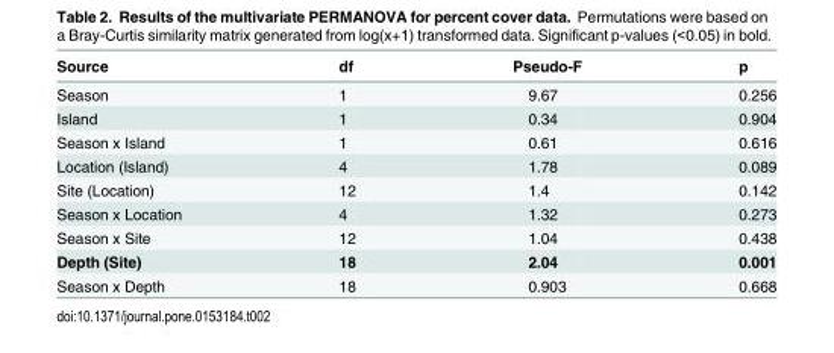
<table><thead><tr><td>Source</td><td>df</td><td>Pseudo-F</td><td>p</td></tr></thead><tbody><tr><td>Season</td><td>1</td><td>9.67</td><td>0.256</td></tr><tr><td>Island</td><td>1</td><td>0.34</td><td>0.904</td></tr><tr><td>Season x Island</td><td>1</td><td>0.61</td><td>0.616</td></tr><tr><td>Location (Island)</td><td>4</td><td>1.78</td><td>0.089</td></tr><tr><td>Site (Location)</td><td>12</td><td>1.4</td><td>0.142</td></tr><tr><td>Season x Location</td><td>4</td><td>1.32</td><td>0.273</td></tr><tr><td>Season x Site</td><td>12</td><td>1.04</td><td>0.438</td></tr><tr><td>Depth (Site)</td><td>18</td><td>2.04</td><td>0.001</td></tr><tr><td>Season x Depth</td><td>18</td><td>0.903</td><td>0.668</td></tr></tbody></table>